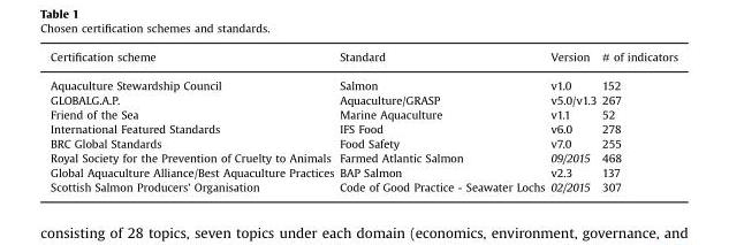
<table><thead><tr><td>Certification scheme</td><td>Standard</td><td>Version</td><td># of indicators</td></tr></thead><tbody><tr><td>Aquaculture Stewardship Council</td><td>Salmon</td><td>v1.0</td><td>152</td></tr><tr><td>GLOBALG.A.P.</td><td>Aquaculture/GRASP</td><td>v5.0/v1.3</td><td>267</td></tr><tr><td>Friend of the Sea</td><td>Marine Aquaculture</td><td>v1.1</td><td>52</td></tr><tr><td>International Featured Standards</td><td>IFS Food</td><td>v6.0</td><td>278</td></tr><tr><td>BRC Global Standards</td><td>Food Safety</td><td>v7.0</td><td>255</td></tr><tr><td>Royal Society for the Prevention of Cruelty to Animals</td><td>Farmed Atlantic Salmon</td><td>09/2015</td><td>468</td></tr><tr><td>Global Aquaculture Alliance/Best Aquaculture Practices</td><td>BAP Salmon</td><td>v2.3</td><td>137</td></tr><tr><td>Scottish Salmon Producers’ Organisation</td><td>Code of Good Practice - Seawater Lochs</td><td>02/2015</td><td>307</td></tr></tbody></table>